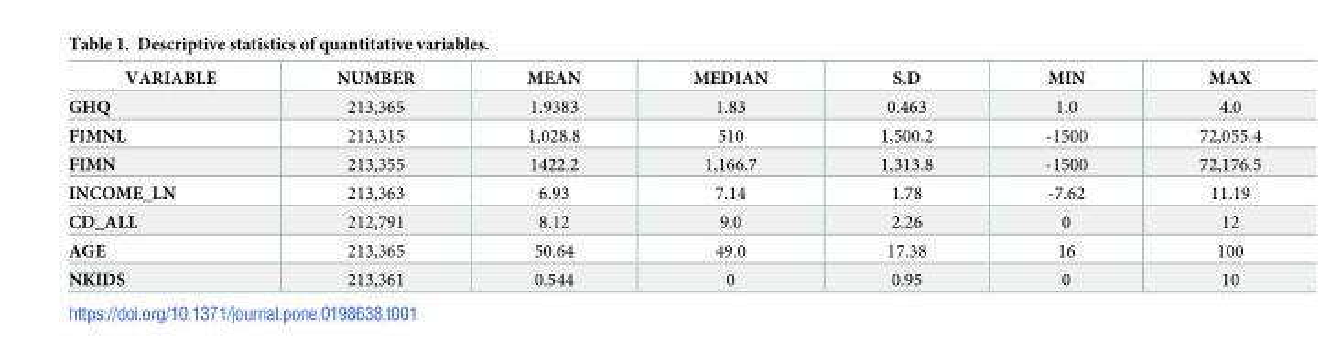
<table><thead><tr><td>VARIABLE</td><td>NUMBER</td><td>MEAN</td><td>MEDIAN</td><td>S.D</td><td>MIN</td><td>MAX</td></tr></thead><tbody><tr><td>GHQ</td><td>213,365</td><td>1.9383</td><td>1.83</td><td>0.463</td><td>1.0</td><td>4.0</td></tr><tr><td>FIMNL</td><td>213,315</td><td>1,028.8</td><td>510</td><td>1,500.2</td><td>-1500</td><td>72,055.4</td></tr><tr><td>FIMN</td><td>213,355</td><td>1422.2</td><td>1,166.7</td><td>1,313.8</td><td>-1500</td><td>72,176.5</td></tr><tr><td>INCOME_LN</td><td>213,363</td><td>6.93</td><td>7.14</td><td>1.78</td><td>-7.62</td><td>11.19</td></tr><tr><td>CD_ALL</td><td>212,791</td><td>8.12</td><td>9.0</td><td>2.26</td><td>0</td><td>12</td></tr><tr><td>AGE</td><td>213,365</td><td>50.64</td><td>49.0</td><td>17.38</td><td>16</td><td>100</td></tr><tr><td>NKIDS</td><td>213,361</td><td>0.544</td><td>0</td><td>0.95</td><td>0</td><td>10</td></tr></tbody></table>